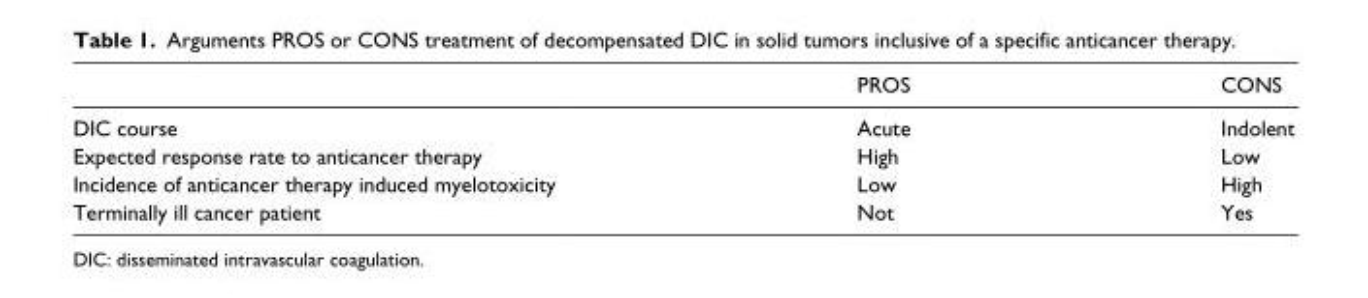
<table><thead><tr><td></td><td>PROS</td><td>CONS</td></tr></thead><tbody><tr><td>DIC course</td><td>Acute</td><td>Indolent</td></tr><tr><td>Expected response rate to anticancer therapy</td><td>High</td><td>Low</td></tr><tr><td>Incidence of anticancer therapy induced myelotoxicity</td><td>Low</td><td>High</td></tr><tr><td>Terminally ill cancer patient</td><td>Not</td><td>Yes</td></tr></tbody></table>